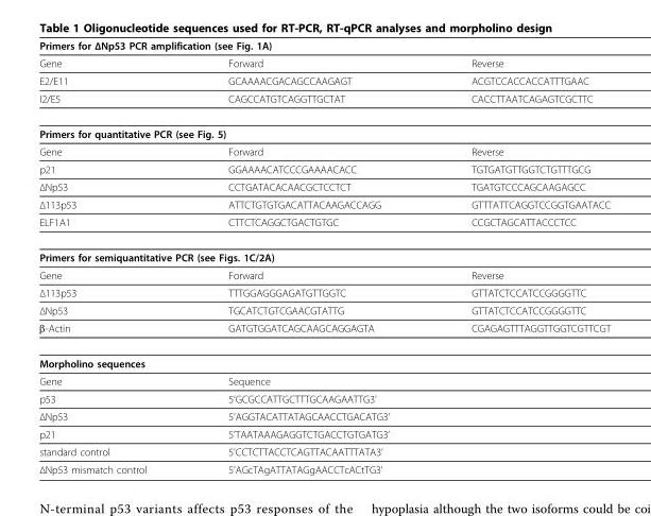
<table><thead><tr><td colspan="3">Primers for ΔNp53 PCR amplification (see Fig. 1A)</td></tr><tr><td>Gene</td><td>Forward</td><td>Reverse</td></tr></thead><tbody><tr><td>E2/E11</td><td>GCAAAACGACAGCCAAGAGT</td><td>ACGTCCACCACCATTTGAAC</td></tr><tr><td>I2/E5</td><td>CAGCCATGTCAGGTTGCTAT</td><td>CACCTTAATCAGAGTCGCTTC</td></tr><tr><td colspan="3">Primers for quantitative PCR (see Fig. 5)</td></tr><tr><td>Gene</td><td>Forward</td><td>Reverse</td></tr><tr><td>p21</td><td>GGAAAACATCCCGAAAACACC</td><td>TGTGATGTTGGTCTGTTTGCG</td></tr><tr><td>ΔNp53</td><td>CCTGATACACAACGCTCCTCT</td><td>TGATGTCCCAGCAAGAGCC</td></tr><tr><td>Δ113p53</td><td>ATTCTGTGTGACATTACAAGACCAGG</td><td>GTTTATTCAGGTCCGGTGAATACC</td></tr><tr><td>ELF1A1</td><td>CTTCTCAGGCTGACTGTGC</td><td>CCGCTAGCATTACCCTCC</td></tr><tr><td colspan="3">Primers for semiquantitative PCR (see Figs. 1C/2A)</td></tr><tr><td>Gene</td><td>Forward</td><td>Reverse</td></tr><tr><td>Δ113p53</td><td>TTTGGAGGGAGATGTTGGTC</td><td>GTTATCTCCATCCGGGGTTC</td></tr><tr><td>ΔNp53</td><td>TGCATCTGTCGAACGTATTG</td><td>GTTATCTCCATCCGGGGTTC</td></tr><tr><td>β-Actin</td><td>GATGTGGATCAGCAAGCAGGAGTA</td><td>CGAGAGTTTAGGTTGGTCGTTCGT</td></tr><tr><td colspan="3">Morpholino sequences</td></tr><tr><td>Gene</td><td>Sequence</td><td></td></tr><tr><td>p53</td><td>5’GCGCCATTGCTTTGCAAGAATTG3’</td><td></td></tr><tr><td>ΔNp53</td><td>5’AGGTACATTATAGCAACCTGACATG3’</td><td></td></tr><tr><td>p21</td><td>5’TAATAAAGAGGTCTGACCTGTGATG3’</td><td></td></tr><tr><td>standard control</td><td>5’CCTCTTACCTCAGTTACAATTTATA3’</td><td></td></tr><tr><td>ΔNp53 mismatch control</td><td>5’AGcTAgATTATAGgAACCTcACtTG3’</td><td></td></tr></tbody></table>